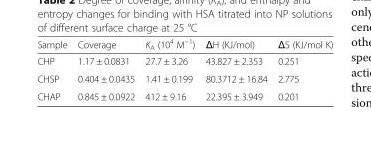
<table><thead><tr><td>Sample</td><td>Coverage</td><td>K<sub>A</sub> (10<sup>4</sup> M<sup>−1</sup>)</td><td>ΔH (KJ/mol)</td><td>ΔS (KJ/mol K)</td></tr></thead><tbody><tr><td>CHP</td><td>1.17 ± 0.0831</td><td>27.7 ± 3.26</td><td>43.827 ± 2.353</td><td>0.251</td></tr><tr><td>CHSP</td><td>0.404 ± 0.0435</td><td>1.41 ± 0.199</td><td>80.3712 ± 16.84</td><td>2.775</td></tr><tr><td>CHAP</td><td>0.845 ± 0.0922</td><td>412 ± 9.16</td><td>22.395 ± 3.949</td><td>0.201</td></tr></tbody></table>